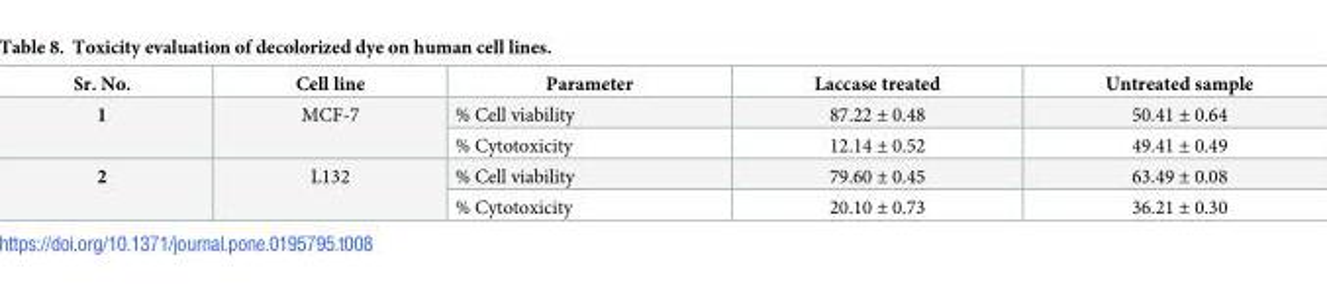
<table><thead><tr><td>Sr. No.</td><td>Cell line</td><td>Parameter</td><td>Laccase treated</td><td>Untreated sample</td></tr></thead><tbody><tr><td rowspan="2">1</td><td rowspan="2">MCF-7</td><td>% Cell viability</td><td>87.22 ± 0.48</td><td>50.41 ± 0.64</td></tr><tr><td>% Cytotoxicity</td><td>12.14 ± 0.52</td><td>49.41 ± 0.49</td></tr><tr><td rowspan="2">2</td><td rowspan="2">L132</td><td>% Cell viability</td><td>79.60 ± 0.45</td><td>63.49 ± 0.08</td></tr><tr><td>% Cytotoxicity</td><td>20.10 ± 0.73</td><td>36.21 ± 0.30</td></tr></tbody></table>